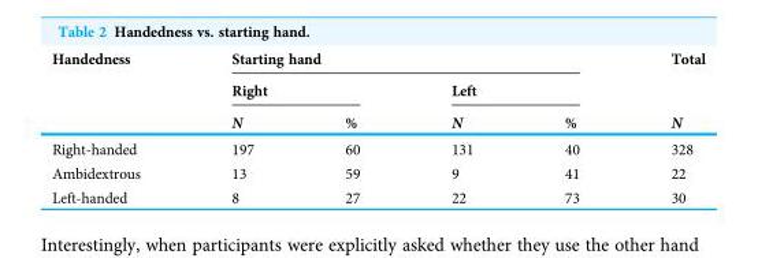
<table><thead><tr><td rowspan="3">Handedness</td><td colspan="4">Starting hand</td><td rowspan="3">Total N</td></tr><tr><td colspan="2">Right</td><td colspan="2">Left</td></tr><tr><td>N</td><td>%</td><td>N</td><td>%</td></tr></thead><tbody><tr><td>Right-handed</td><td>197</td><td>60</td><td>131</td><td>40</td><td>328</td></tr><tr><td>Ambidextrous</td><td>13</td><td>59</td><td>9</td><td>41</td><td>22</td></tr><tr><td>Left-handed</td><td>8</td><td>27</td><td>22</td><td>73</td><td>30</td></tr></tbody></table>